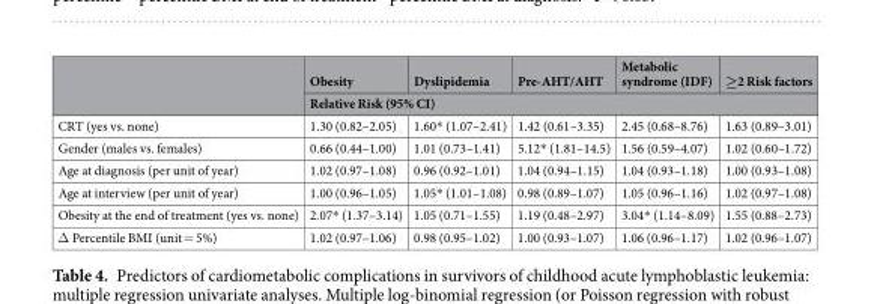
<table><thead><tr><td rowspan="2"></td><td>Obesity</td><td>Dyslipidemia</td><td>Pre-AHT/AHT</td><td>Metabolic syndrome (IDF)</td><td>≥2 Risk factors</td></tr><tr><td colspan="5">Relative Risk (95% CI)</td></tr></thead><tbody><tr><td>CRT (yes vs. none)</td><td>1.30 (0.82–2.05)</td><td>1.60* (1.07–2.41)</td><td>1.42 (0.61–3.35)</td><td>2.45 (0.68–8.76)</td><td>1.63 (0.89–3.01)</td></tr><tr><td>Gender (males vs. females)</td><td>0.66 (0.44–1.00)</td><td>1.01 (0.73–1.41)</td><td>5.12* (1.81–14.5)</td><td>1.56 (0.59–4.07)</td><td>1.02 (0.60–1.72)</td></tr><tr><td>Age at diagnosis (per unit of year)</td><td>1.02 (0.97–1.08)</td><td>0.96 (0.92–1.01)</td><td>1.04 (0.94–1.15)</td><td>1.04 (0.93–1.18)</td><td>1.00 (0.93–1.08)</td></tr><tr><td>Age at interview (per unit of year)</td><td>1.00 (0.96–1.05)</td><td>1.05* (1.01–1.08)</td><td>0.98 (0.89–1.07)</td><td>1.05 (0.96–1.16)</td><td>1.02 (0.97–1.08)</td></tr><tr><td>Obesity at the end of treatment (yes vs. none)</td><td>2.07* (1.37–3.14)</td><td>1.05 (0.71–1.55)</td><td>1.19 (0.48–2.97)</td><td>3.04* (1.14–8.09)</td><td>1.55 (0.88–2.73)</td></tr><tr><td>Δ Percentile BMI (unit = 5%)</td><td>1.02 (0.97–1.06)</td><td>0.98 (0.95–1.02)</td><td>1.00 (0.93–1.07)</td><td>1.06 (0.96–1.17)</td><td>1.02 (0.96–1.07)</td></tr></tbody></table>